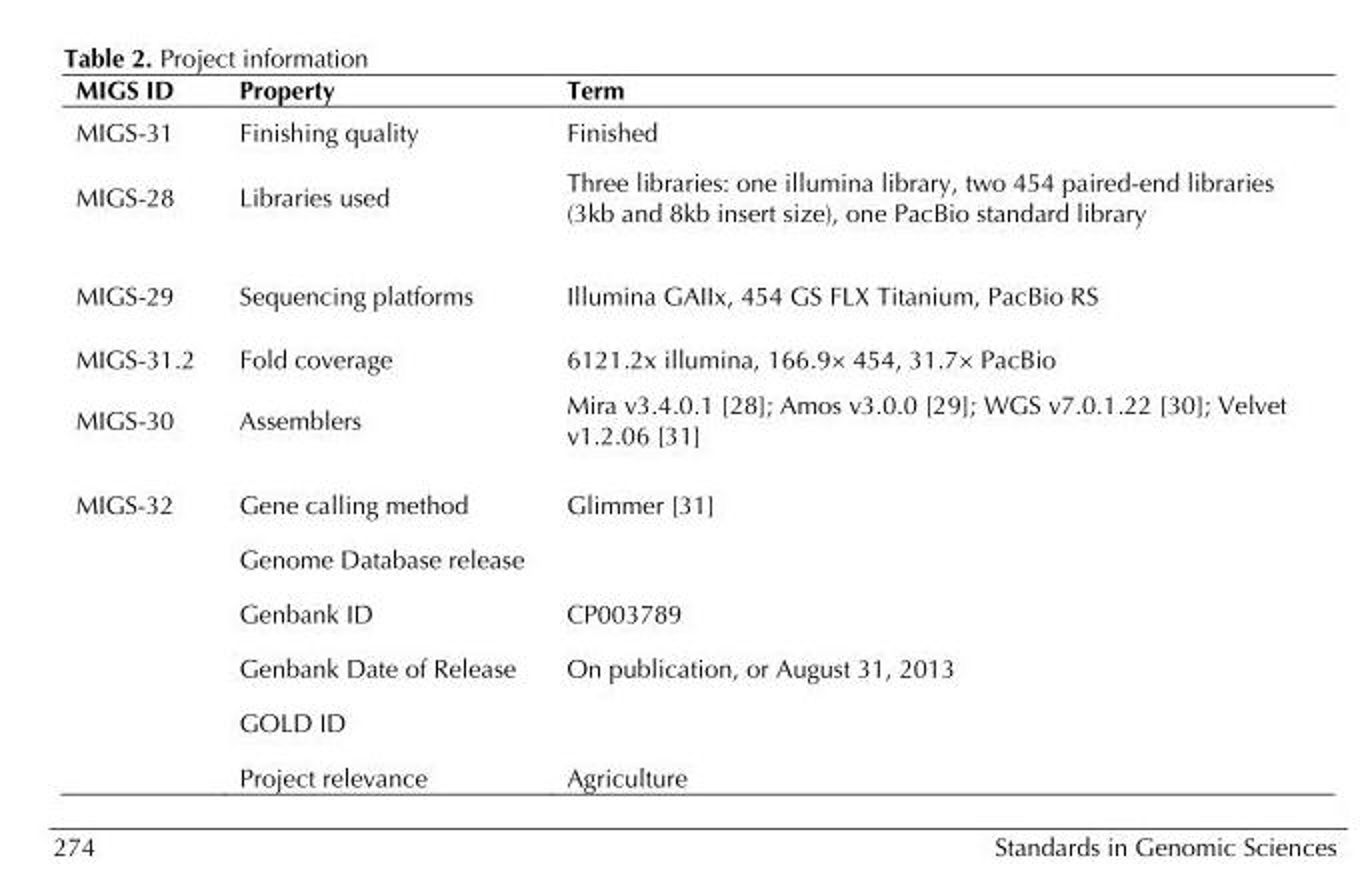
<table><thead><tr><td>MIGS ID</td><td>Property</td><td>Term</td></tr></thead><tbody><tr><td>MIGS-31</td><td>Finishing quality</td><td>Finished</td></tr><tr><td>MIGS-28</td><td>Libraries used</td><td>Three libraries: one illumina library, two 454 paired-end libraries (3kb and 8kb insert size), one PacBio standard library</td></tr><tr><td>MIGS-29</td><td>Sequencing platforms</td><td>Illumina GAIIx, 454 GS FLX Titanium, PacBio RS</td></tr><tr><td>MIGS-31.2</td><td>Fold coverage</td><td>6121.2x illumina, 166.9× 454, 31.7× PacBio</td></tr><tr><td>MIGS-30</td><td>Assemblers</td><td>Mira v3.4.0.1 [28]; Amos v3.0.0 [29]; WGS v7.0.1.22 [30]; Velvet v1.2.06 [31]</td></tr><tr><td rowspan="6">MIGS-32</td><td>Gene calling method</td><td>Glimmer [31]</td></tr><tr><td>Genome Database release</td><td></td></tr><tr><td>Genbank ID</td><td>CP003789</td></tr><tr><td>Genbank Date of Release</td><td>On publication, or August 31, 2013</td></tr><tr><td>GOLD ID</td><td></td></tr><tr><td>Project relevance</td><td>Agriculture</td></tr></tbody></table>